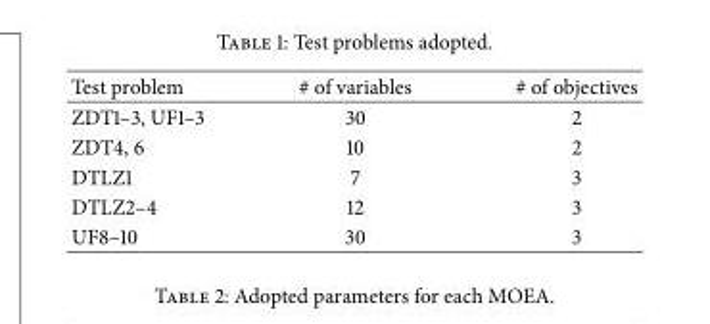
<table><thead><tr><td>Test problem</td><td># of variables</td><td># of objectives</td></tr></thead><tbody><tr><td>ZDT1–3, UF1–3</td><td>30</td><td>2</td></tr><tr><td>ZDT4, 6</td><td>10</td><td>2</td></tr><tr><td>DTLZ1</td><td>7</td><td>3</td></tr><tr><td>DTLZ2–4</td><td>12</td><td>3</td></tr><tr><td>UF8–10</td><td>30</td><td>3</td></tr></tbody></table>